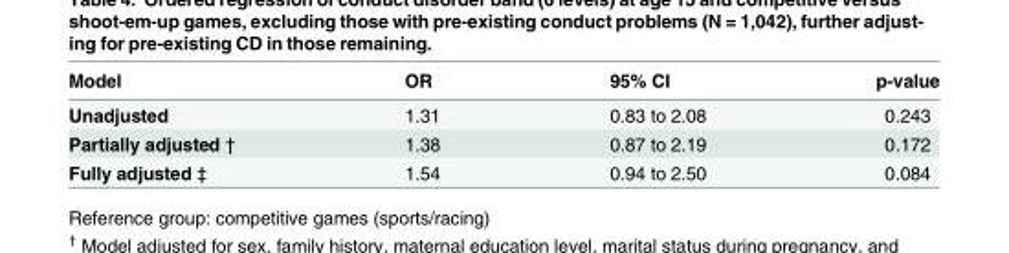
<table><thead><tr><td>Model</td><td>OR</td><td>95% CI</td><td>p-value</td></tr></thead><tbody><tr><td>Unadjusted</td><td>1.31</td><td>0.83 to 2.08</td><td>0.243</td></tr><tr><td>Partially adjusted †</td><td>1.38</td><td>0.87 to 2.19</td><td>0.172</td></tr><tr><td>Fully adjusted ‡</td><td>1.54</td><td>0.94 to 2.50</td><td>0.084</td></tr></tbody></table>